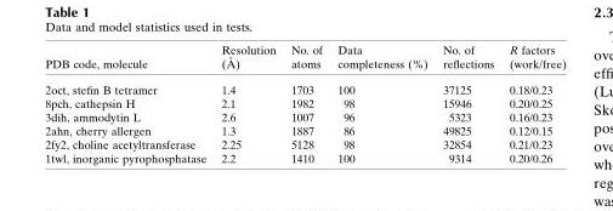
<table><thead><tr><td>PDB code, molecule</td><td>Resolution (A˚ )</td><td>No. of atoms</td><td>Data completeness (%)</td><td>No. of reflections</td><td>R factors (work/free)</td></tr></thead><tbody><tr><td>2oct, stefin B tetramer</td><td>1.4</td><td>1703</td><td>100</td><td>37125</td><td>0.18/0.23</td></tr><tr><td>8pch, cathepsin H</td><td>2.1</td><td>1982</td><td>98</td><td>15946</td><td>0.20/0.25</td></tr><tr><td>3dih, ammodytin L</td><td>2.6</td><td>1007</td><td>96</td><td>5323</td><td>0.16/0.23</td></tr><tr><td>2ahn, cherry allergen</td><td>1.3</td><td>1887</td><td>86</td><td>49825</td><td>0.12/0.15</td></tr><tr><td>2fy2, choline acetyltransferase</td><td>2.25</td><td>5128</td><td>98</td><td>32854</td><td>0.21/0.23</td></tr><tr><td>1twl, inorganic pyrophosphatase</td><td>2.2</td><td>1410</td><td>100</td><td>9314</td><td>0.20/0.26</td></tr></tbody></table>